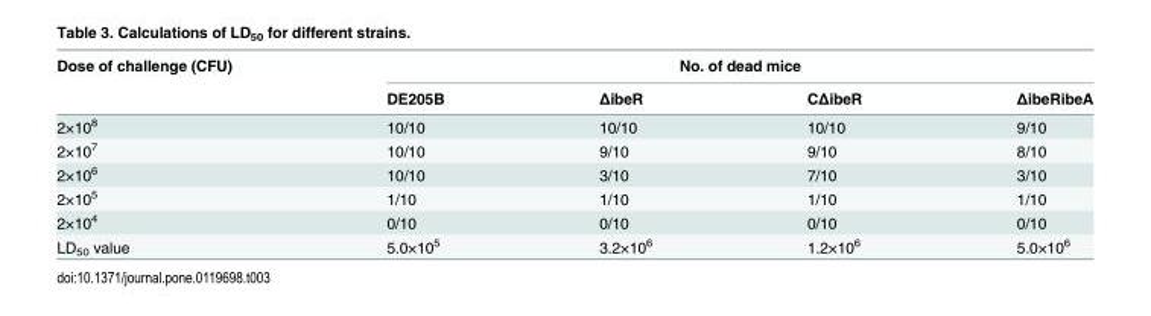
<table><thead><tr><td rowspan="2">Dose of challenge (CFU)</td><td colspan="4">No. of dead mice</td></tr><tr><td>DE205B</td><td>ΔibeR</td><td>CΔibeR</td><td>ΔibeRibeA</td></tr></thead><tbody><tr><td>2×10<sup>8</sup></td><td>10/10</td><td>10/10</td><td>10/10</td><td>9/10</td></tr><tr><td>2×10<sup>7</sup></td><td>10/10</td><td>9/10</td><td>9/10</td><td>8/10</td></tr><tr><td>2×10<sup>6</sup></td><td>10/10</td><td>3/10</td><td>7/10</td><td>3/10</td></tr><tr><td>2×10<sup>5</sup></td><td>1/10</td><td>1/10</td><td>1/10</td><td>1/10</td></tr><tr><td>2×10<sup>4</sup></td><td>0/10</td><td>0/10</td><td>0/10</td><td>0/10</td></tr><tr><td>LD<sub>50</sub> value</td><td>5.0×10<sup>5</sup></td><td>3.2×10<sup>6</sup></td><td>1.2×10<sup>6</sup></td><td>5.0×10<sup>6</sup></td></tr></tbody></table>